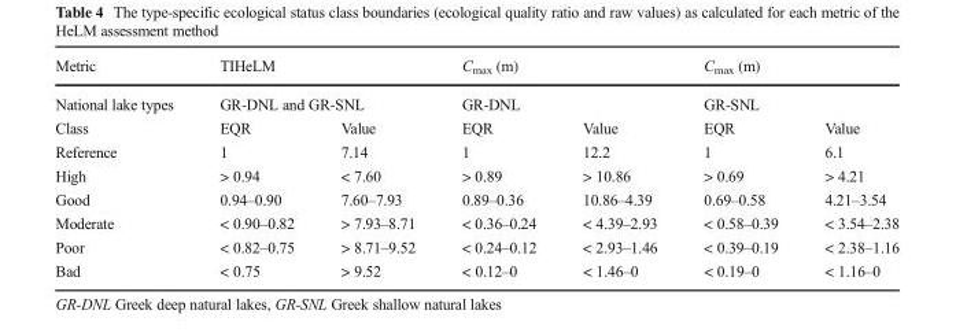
<table><thead><tr><td rowspan="3">Metric National lake types Class</td><td rowspan="2" colspan="2">TIHeLM GR-DNL and GR-SNL</td><td rowspan="2" colspan="2">C<sub>max</sub> (m) GR-DNL</td><td rowspan="2" colspan="2">C<sub>max</sub> (m) GR-SNL</td></tr><tr></tr><tr><td>EQR</td><td>Value</td><td>EQR</td><td>Value</td><td>EQR</td><td>Value</td></tr></thead><tbody><tr><td>Reference</td><td>1</td><td>7.14</td><td>1</td><td>12.2</td><td>1</td><td>6.1</td></tr><tr><td>High</td><td>&gt; 0.94</td><td>&lt; 7.60</td><td>&gt; 0.89</td><td>&gt; 10.86</td><td>&gt; 0.69</td><td>&gt; 4.21</td></tr><tr><td>Good</td><td>0.94–0.90</td><td>7.60–7.93</td><td>0.89–0.36</td><td>10.86–4.39</td><td>0.69–0.58</td><td>4.21–3.54</td></tr><tr><td>Moderate</td><td>&lt; 0.90–0.82</td><td>&gt; 7.93–8.71</td><td>&lt; 0.36–0.24</td><td>&lt; 4.39–2.93</td><td>&lt; 0.58–0.39</td><td>&lt; 3.54–2.38</td></tr><tr><td>Poor</td><td>&lt; 0.82–0.75</td><td>&gt; 8.71–9.52</td><td>&lt; 0.24–0.12</td><td>&lt; 2.93–1.46</td><td>&lt; 0.39–0.19</td><td>&lt; 2.38–1.16</td></tr><tr><td>Bad</td><td>&lt; 0.75</td><td>&gt; 9.52</td><td>&lt; 0.12–0</td><td>&lt; 1.46–0</td><td>&lt; 0.19–0</td><td>&lt; 1.16–0</td></tr></tbody></table>